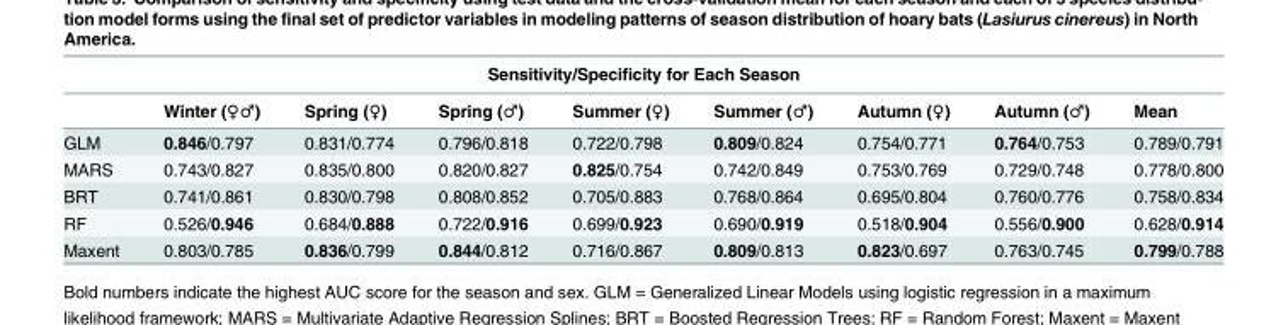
<table><thead><tr><td colspan="9">Sensitivity/Specificity for Each Season</td></tr><tr><td></td><td>Winter (♀♂)</td><td>Spring (♀)</td><td>Spring (♂)</td><td>Summer (♀)</td><td>Summer (♂)</td><td>Autumn (♀)</td><td>Autumn (♂)</td><td>Mean</td></tr></thead><tbody><tr><td>GLM</td><td>0.846/0.797</td><td>0.831/0.774</td><td>0.796/0.818</td><td>0.722/0.798</td><td>0.809/0.824</td><td>0.754/0.771</td><td>0.764/0.753</td><td>0.789/0.791</td></tr><tr><td>MARS</td><td>0.743/0.827</td><td>0.835/0.800</td><td>0.820/0.827</td><td>0.825/0.754</td><td>0.742/0.849</td><td>0.753/0.769</td><td>0.729/0.748</td><td>0.778/0.800</td></tr><tr><td>BRT</td><td>0.741/0.861</td><td>0.830/0.798</td><td>0.808/0.852</td><td>0.705/0.883</td><td>0.768/0.864</td><td>0.695/0.804</td><td>0.760/0.776</td><td>0.758/0.834</td></tr><tr><td>RF</td><td>0.526/0.946</td><td>0.684/0.888</td><td>0.722/0.916</td><td>0.699/0.923</td><td>0.690/0.919</td><td>0.518/0.904</td><td>0.556/0.900</td><td>0.628/0.914</td></tr><tr><td>Maxent</td><td>0.803/0.785</td><td>0.836/0.799</td><td>0.844/0.812</td><td>0.716/0.867</td><td>0.809/0.813</td><td>0.823/0.697</td><td>0.763/0.745</td><td>0.799/0.788</td></tr></tbody></table>